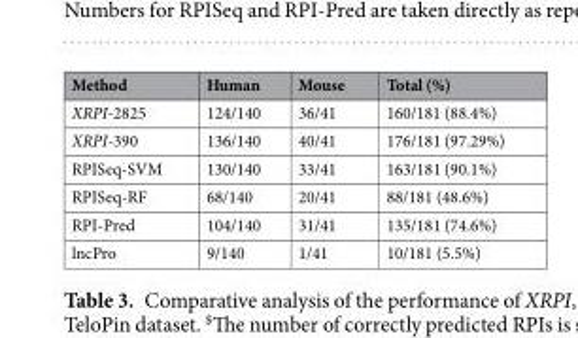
<table><thead><tr><td>Method</td><td>Human</td><td>Mouse</td><td>Total (%)</td></tr></thead><tbody><tr><td>XRPI-2825</td><td>124/140</td><td>36/41</td><td>160/181 (88.4%)</td></tr><tr><td>XRPI-390</td><td>136/140</td><td>40/41</td><td>176/181 (97.29%)</td></tr><tr><td>RPISeq-SVM</td><td>130/140</td><td>33/41</td><td>163/181 (90.1%)</td></tr><tr><td>RPISeq-RF</td><td>68/140</td><td>20/41</td><td>88/181 (48.6%)</td></tr><tr><td>RPI-Pred</td><td>104/140</td><td>31/41</td><td>135/181 (74.6%)</td></tr><tr><td>lncPro</td><td>9/140</td><td>1/41</td><td>10/181 (5.5%)</td></tr></tbody></table>